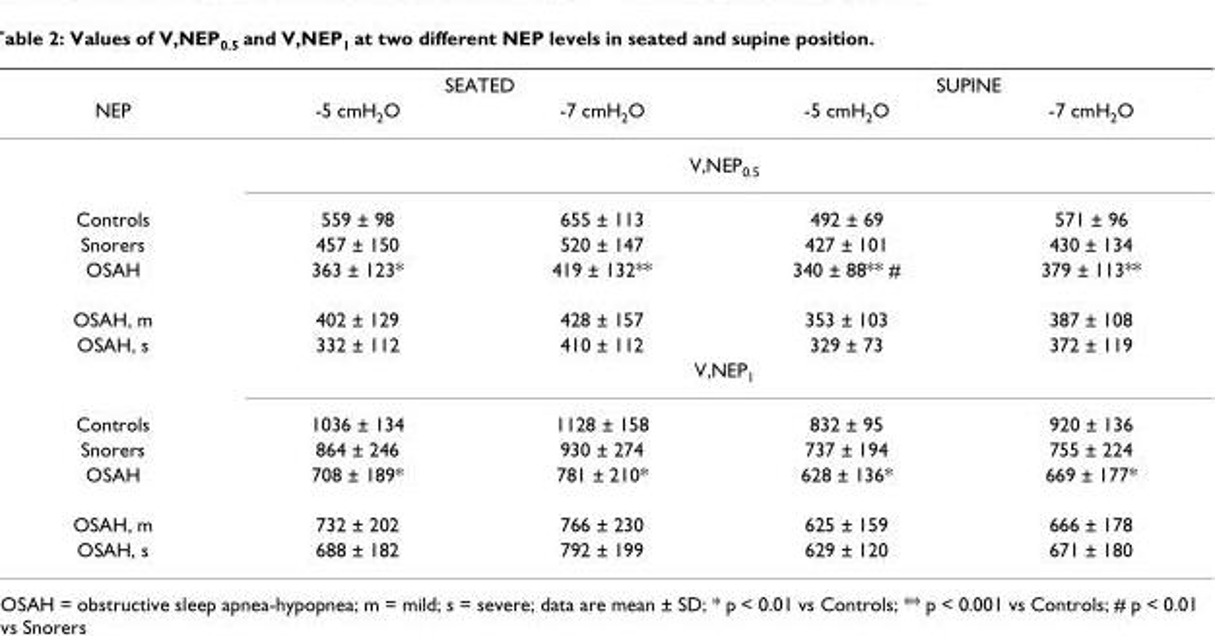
<table><thead><tr><td rowspan="2">NEP</td><td colspan="2">SEATED</td><td colspan="2">SUPINE</td></tr><tr><td>-5 cmH<sub>2</sub>O</td><td>-7 cmH<sub>2</sub>O</td><td>-5 cmH<sub>2</sub>O</td><td>-7 cmH<sub>2</sub>O</td></tr></thead><tbody><tr><td></td><td colspan="4">V,NEP<sub>0.5</sub></td></tr><tr><td>Controls</td><td>559 ± 98</td><td>655 ± 113</td><td>492 ± 69</td><td>571 ± 96</td></tr><tr><td>Snorers</td><td>457 ± 150</td><td>520 ± 147</td><td>427 ± 101</td><td>430 ± 134</td></tr><tr><td>OSAH</td><td>363 ± 123*</td><td>419 ± 132**</td><td>340 ± 88** #</td><td>379 ± 113**</td></tr><tr><td>OSAH, m</td><td>402 ± 129</td><td>428 ± 157</td><td>353 ± 103</td><td>387 ± 108</td></tr><tr><td rowspan="2">OSAH, s</td><td>332 ± 112</td><td>410 ± 112</td><td>329 ± 73</td><td>372 ± 119</td></tr><tr><td colspan="4">V,NEP<sub>1</sub></td></tr><tr><td>Controls</td><td>1036 ± 134</td><td>1128 ± 158</td><td>832 ± 95</td><td>920 ± 136</td></tr><tr><td>Snorers</td><td>864 ± 246</td><td>930 ± 274</td><td>737 ± 194</td><td>755 ± 224</td></tr><tr><td>OSAH</td><td>708 ± 189*</td><td>781 ± 210*</td><td>628 ± 136*</td><td>669 ± 177*</td></tr><tr><td>OSAH, m</td><td>732 ± 202</td><td>766 ± 230</td><td>625 ± 159</td><td>666 ± 178</td></tr><tr><td>OSAH, s</td><td>688 ± 182</td><td>792 ± 199</td><td>629 ± 120</td><td>671 ± 180</td></tr></tbody></table>